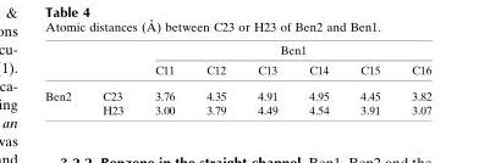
<table><thead><tr><td rowspan="2"></td><td rowspan="2"></td><td colspan="6">Ben1</td></tr><tr><td>C11</td><td>C12</td><td>C13</td><td>C14</td><td>C15</td><td>C16</td></tr></thead><tbody><tr><td rowspan="2">Ben2</td><td>C23</td><td>3.76</td><td>4.35</td><td>4.91</td><td>4.95</td><td>4.45</td><td>3.82</td></tr><tr><td>H23</td><td>3.00</td><td>3.79</td><td>4.49</td><td>4.54</td><td>3.91</td><td>3.07</td></tr></tbody></table>